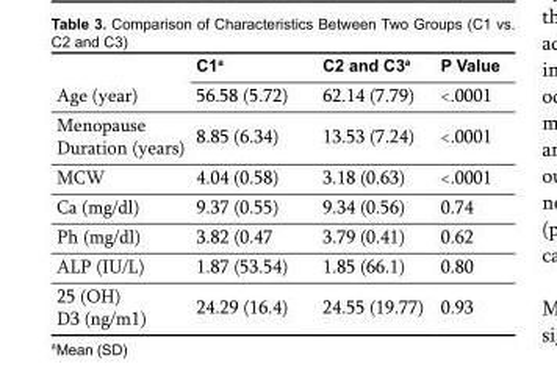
<table><thead><tr><td></td><td>C1<sup>a</sup></td><td>C2 and C3<sup>a</sup></td><td>P Value</td></tr></thead><tbody><tr><td>Age (year)</td><td>56.58 (5.72)</td><td>62.14 (7.79)</td><td>&lt;.0001</td></tr><tr><td>Menopause Duration (years)</td><td>8.85 (6.34)</td><td>13.53 (7.24)</td><td>&lt;.0001</td></tr><tr><td>MCW</td><td>4.04 (0.58)</td><td>3.18 (0.63)</td><td>&lt;.0001</td></tr><tr><td>Ca (mg/dl)</td><td>9.37 (0.55)</td><td>9.34 (0.56)</td><td>0.74</td></tr><tr><td>Ph (mg/dl)</td><td>3.82 (0.47</td><td>3.79 (0.41)</td><td>0.62</td></tr><tr><td>ALP (IU/L)</td><td>1.87 (53.54)</td><td>1.85 (66.1)</td><td>0.80</td></tr><tr><td>25 (OH) D3 (ng/m1)</td><td>24.29 (16.4)</td><td>24.55 (19.77)</td><td>0.93</td></tr></tbody></table>